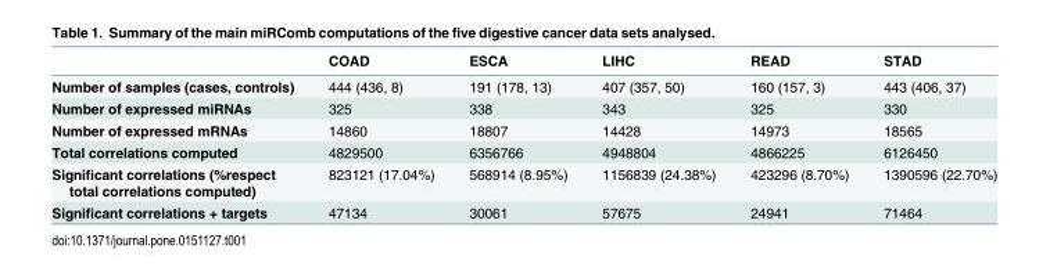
<table><thead><tr><td></td><td>COAD</td><td>ESCA</td><td>LIHC</td><td>READ</td><td>STAD</td></tr></thead><tbody><tr><td>Number of samples (cases, controls)</td><td>444 (436, 8)</td><td>191 (178, 13)</td><td>407 (357, 50)</td><td>160 (157, 3)</td><td>443 (406, 37)</td></tr><tr><td>Number of expressed miRNAs</td><td>325</td><td>338</td><td>343</td><td>325</td><td>330</td></tr><tr><td>Number of expressed mRNAs</td><td>14860</td><td>18807</td><td>14428</td><td>14973</td><td>18565</td></tr><tr><td>Total correlations computed</td><td>4829500</td><td>6356766</td><td>4948804</td><td>4866225</td><td>6126450</td></tr><tr><td>Significant correlations (%respect total correlations computed)</td><td>823121 (17.04%)</td><td>568914 (8.95%)</td><td>1156839 (24.38%)</td><td>423296 (8.70%)</td><td>1390596 (22.70%)</td></tr><tr><td>Significant correlations + targets</td><td>47134</td><td>30061</td><td>57675</td><td>24941</td><td>71464</td></tr></tbody></table>